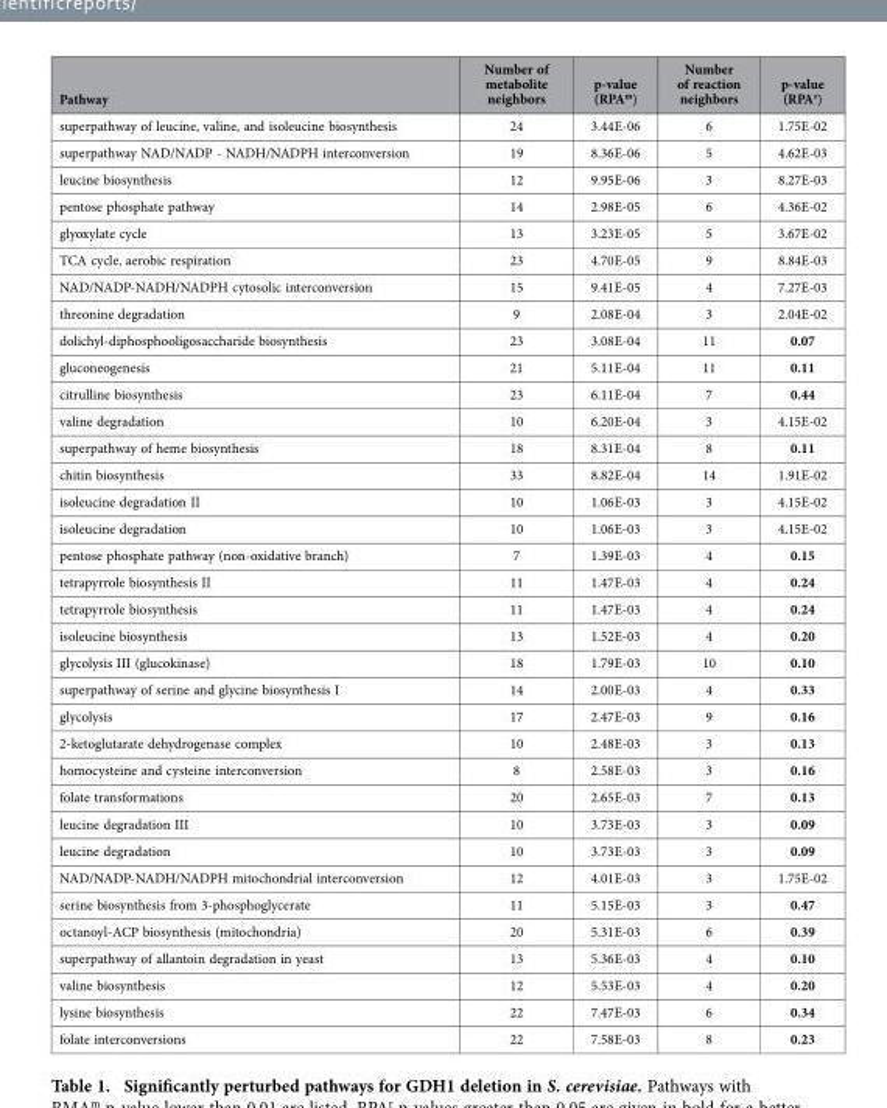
<table><thead><tr><td>Pathway</td><td>Number of metabolite neighbors</td><td>p-value (RPA<sup>m</sup>)</td><td>Number of reaction neighbors</td><td>p-value (RPA<sup>r</sup>)</td></tr></thead><tbody><tr><td>superpathway of leucine, valine, and isoleucine biosynthesis</td><td>24</td><td>3.44E-06</td><td>6</td><td>1.75E-02</td></tr><tr><td>superpathway NAD/NADP - NADH/NADPH interconversion</td><td>19</td><td>8.36E-06</td><td>5</td><td>4.62E-03</td></tr><tr><td>leucine biosynthesis</td><td>12</td><td>9.95E-06</td><td>3</td><td>8.27E-03</td></tr><tr><td>pentose phosphate pathway</td><td>14</td><td>2.98E-05</td><td>6</td><td>4.36E-02</td></tr><tr><td>glyoxylate cycle</td><td>13</td><td>3.23E-05</td><td>5</td><td>3.67E-02</td></tr><tr><td>TCA cycle, aerobic respiration</td><td>23</td><td>4.70E-05</td><td>9</td><td>8.84E-03</td></tr><tr><td>NAD/NADP-NADH/NADPH cytosolic interconversion</td><td>15</td><td>9.41E-05</td><td>4</td><td>7.27E-03</td></tr><tr><td>threonine degradation</td><td>9</td><td>2.08E-04</td><td>3</td><td>2.04E-02</td></tr><tr><td>dolichyl-diphosphooligosaccharide biosynthesis</td><td>23</td><td>3.08E-04</td><td>11</td><td>0.07</td></tr><tr><td>gluconeogenesis</td><td>21</td><td>5.11E-04</td><td>11</td><td>0.11</td></tr><tr><td>citrulline biosynthesis</td><td>23</td><td>6.11E-04</td><td>7</td><td>0.44</td></tr><tr><td>valine degradation</td><td>10</td><td>6.20E-04</td><td>3</td><td>4.15E-02</td></tr><tr><td>superpathway of heme biosynthesis</td><td>18</td><td>8.31E-04</td><td>8</td><td>0.11</td></tr><tr><td>chitin biosynthesis</td><td>33</td><td>8.82E-04</td><td>14</td><td>1.91E-02</td></tr><tr><td>isoleucine degradation II</td><td>10</td><td>1.06E-03</td><td>3</td><td>4.15E-02</td></tr><tr><td>isoleucine degradation</td><td>10</td><td>1.06E-03</td><td>3</td><td>4.15E-02</td></tr><tr><td>pentose phosphate pathway (non-oxidative branch)</td><td>7</td><td>1.39E-03</td><td>4</td><td>0.15</td></tr><tr><td>tetrapyrrole biosynthesis II</td><td>11</td><td>1.47E-03</td><td>4</td><td>0.24</td></tr><tr><td>tetrapyrrole biosynthesis</td><td>11</td><td>1.47E-03</td><td>4</td><td>0.24</td></tr><tr><td>isoleucine biosynthesis</td><td>13</td><td>1.52E-03</td><td>4</td><td>0.20</td></tr><tr><td>glycolysis III (glucokinase)</td><td>18</td><td>1.79E-03</td><td>10</td><td>0.10</td></tr><tr><td>superpathway of serine and glycine biosynthesis I</td><td>14</td><td>2.00E-03</td><td>4</td><td>0.33</td></tr><tr><td>glycolysis</td><td>17</td><td>2.47E-03</td><td>9</td><td>0.16</td></tr><tr><td>2-ketoglutarate dehydrogenase complex</td><td>10</td><td>2.48E-03</td><td>3</td><td>0.13</td></tr><tr><td>homocysteine and cysteine interconversion</td><td>8</td><td>2.58E-03</td><td>3</td><td>0.16</td></tr><tr><td>folate transformations</td><td>20</td><td>2.65E-03</td><td>7</td><td>0.13</td></tr><tr><td>leucine degradation III</td><td>10</td><td>3.73E-03</td><td>3</td><td>0.09</td></tr><tr><td>leucine degradation</td><td>10</td><td>3.73E-03</td><td>3</td><td>0.09</td></tr><tr><td>NAD/NADP-NADH/NADPH mitochondrial interconversion</td><td>12</td><td>4.01E-03</td><td>3</td><td>1.75E-02</td></tr><tr><td>serine biosynthesis from 3-phosphoglycerate</td><td>11</td><td>5.15E-03</td><td>3</td><td>0.47</td></tr><tr><td>octanoyl-ACP biosynthesis (mitochondria)</td><td>20</td><td>5.31E-03</td><td>6</td><td>0.39</td></tr><tr><td>superpathway of allantoin degradation in yeast</td><td>13</td><td>5.36E-03</td><td>4</td><td>0.10</td></tr><tr><td>valine biosynthesis</td><td>12</td><td>5.53E-03</td><td>4</td><td>0.20</td></tr><tr><td>lysine biosynthesis</td><td>22</td><td>7.47E-03</td><td>6</td><td>0.34</td></tr><tr><td>folate interconversions</td><td>22</td><td>7.58E-03</td><td>8</td><td>0.23</td></tr></tbody></table>